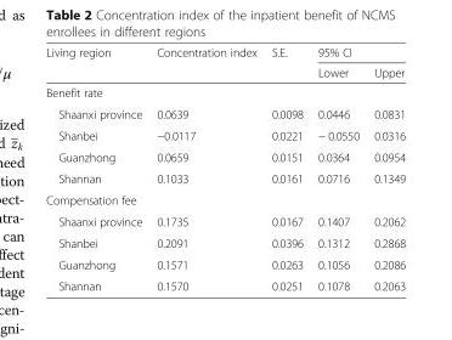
<table><thead><tr><td rowspan="2">Living region</td><td rowspan="2">Concentration index</td><td rowspan="2">S.E.</td><td colspan="2">95% CI</td></tr><tr><td>Lower</td><td>Upper</td></tr></thead><tbody><tr><td colspan="5">Benefit rate</td></tr><tr><td>Shaanxi province</td><td>0.0639</td><td>0.0098</td><td>0.0446</td><td>0.0831</td></tr><tr><td>Shanbei</td><td>−0.0117</td><td>0.0221</td><td>− 0.0550</td><td>0.0316</td></tr><tr><td>Guanzhong</td><td>0.0659</td><td>0.0151</td><td>0.0364</td><td>0.0954</td></tr><tr><td>Shannan</td><td>0.1033</td><td>0.0161</td><td>0.0716</td><td>0.1349</td></tr><tr><td colspan="5">Compensation fee</td></tr><tr><td>Shaanxi province</td><td>0.1735</td><td>0.0167</td><td>0.1407</td><td>0.2062</td></tr><tr><td>Shanbei</td><td>0.2091</td><td>0.0396</td><td>0.1312</td><td>0.2868</td></tr><tr><td>Guanzhong</td><td>0.1571</td><td>0.0263</td><td>0.1056</td><td>0.2086</td></tr><tr><td>Shannan</td><td>0.1570</td><td>0.0251</td><td>0.1078</td><td>0.2063</td></tr></tbody></table>